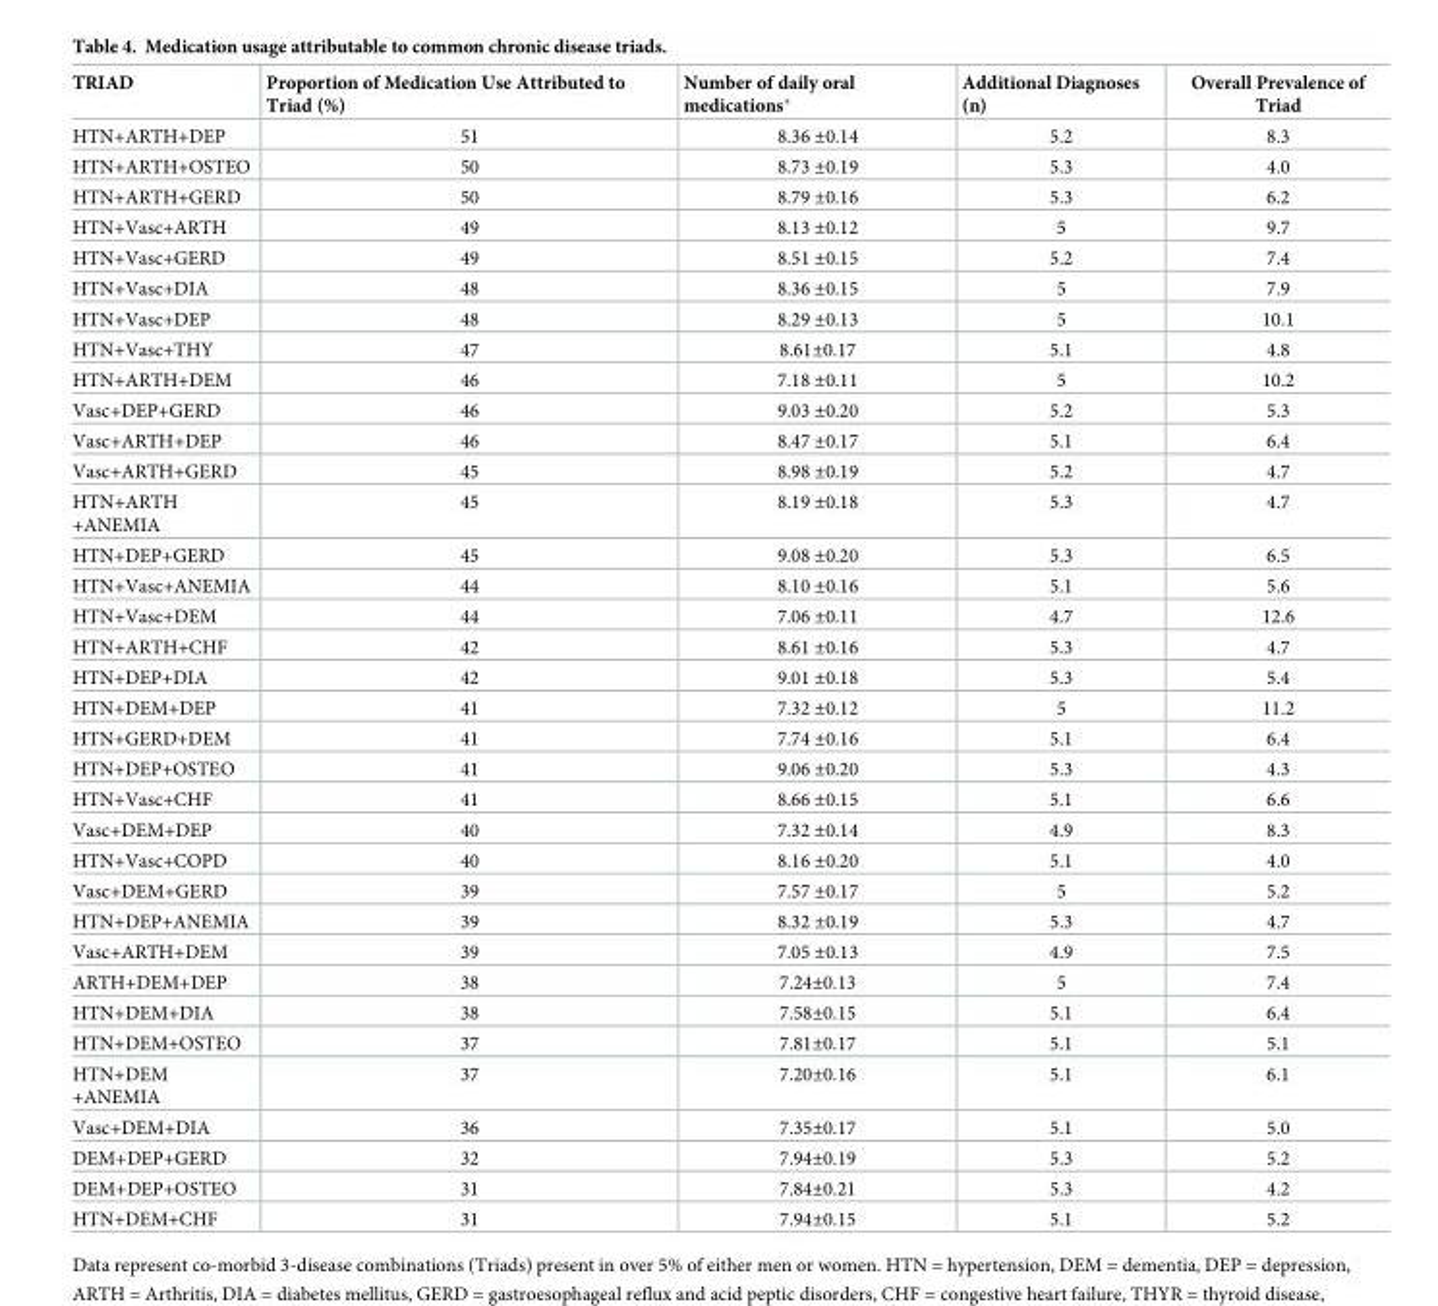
<table><thead><tr><td>TRIAD</td><td>Proportion of Medication Use Attributed to Triad (%)</td><td>Number of daily oral medications*</td><td>Additional Diagnoses (n)</td><td>Overall Prevalence of Triad</td></tr></thead><tbody><tr><td>HTN+ARTH+DEP</td><td>51</td><td>8.36 ±0.14</td><td>5.2</td><td>8.3</td></tr><tr><td>HTN+ARTH+OSTEO</td><td>50</td><td>8.73 ±0.19</td><td>5.3</td><td>4.0</td></tr><tr><td>HTN+ARTH+GERD</td><td>50</td><td>8.79 ±0.16</td><td>5.3</td><td>6.2</td></tr><tr><td>HTN+Vasc+ARTH</td><td>49</td><td>8.13 ±0.12</td><td>5</td><td>9.7</td></tr><tr><td>HTN+Vasc+GERD</td><td>49</td><td>8.51 ±0.15</td><td>5.2</td><td>7.4</td></tr><tr><td>HTN+Vasc+DIA</td><td>48</td><td>8.36 ±0.15</td><td>5</td><td>7.9</td></tr><tr><td>HTN+Vasc+DEP</td><td>48</td><td>8.29 ±0.13</td><td>5</td><td>10.1</td></tr><tr><td>HTN+Vasc+THY</td><td>47</td><td>8.61±0.17</td><td>5.1</td><td>4.8</td></tr><tr><td>HTN+ARTH+DEM</td><td>46</td><td>7.18 ±0.11</td><td>5</td><td>10.2</td></tr><tr><td>Vasc+DEP+GERD</td><td>46</td><td>9.03 ±0.20</td><td>5.2</td><td>5.3</td></tr><tr><td>Vasc+ARTH+DEP</td><td>46</td><td>8.47 ±0.17</td><td>5.1</td><td>6.4</td></tr><tr><td>Vasc+ARTH+GERD</td><td>45</td><td>8.98 ±0.19</td><td>5.2</td><td>4.7</td></tr><tr><td>HTN+ARTH +ANEMIA</td><td>45</td><td>8.19 ±0.18</td><td>5.3</td><td>4.7</td></tr><tr><td>HTN+DEP+GERD</td><td>45</td><td>9.08 ±0.20</td><td>5.3</td><td>6.5</td></tr><tr><td>HTN+Vasc+ANEMIA</td><td>44</td><td>8.10 ±0.16</td><td>5.1</td><td>5.6</td></tr><tr><td>HTN+Vasc+DEM</td><td>44</td><td>7.06 ±0.11</td><td>4.7</td><td>12.6</td></tr><tr><td>HTN+ARTH+CHF</td><td>42</td><td>8.61 ±0.16</td><td>5.3</td><td>4.7</td></tr><tr><td>HTN+DEP+DIA</td><td>42</td><td>9.01 ±0.18</td><td>5.3</td><td>5.4</td></tr><tr><td>HTN+DEM+DEP</td><td>41</td><td>7.32 ±0.12</td><td>5</td><td>11.2</td></tr><tr><td>HTN+GERD+DEM</td><td>41</td><td>7.74 ±0.16</td><td>5.1</td><td>6.4</td></tr><tr><td>HTN+DEP+OSTEO</td><td>41</td><td>9.06 ±0.20</td><td>5.3</td><td>4.3</td></tr><tr><td>HTN+Vasc+CHF</td><td>41</td><td>8.66 ±0.15</td><td>5.1</td><td>6.6</td></tr><tr><td>Vasc+DEM+DEP</td><td>40</td><td>7.32 ±0.14</td><td>4.9</td><td>8.3</td></tr><tr><td>HTN+Vasc+COPD</td><td>40</td><td>8.16 ±0.20</td><td>5.1</td><td>4.0</td></tr><tr><td>Vasc+DEM+GERD</td><td>39</td><td>7.57 ±0.17</td><td>5</td><td>5.2</td></tr><tr><td>HTN+DEP+ANEMIA</td><td>39</td><td>8.32 ±0.19</td><td>5.3</td><td>4.7</td></tr><tr><td>Vasc+ARTH+DEM</td><td>39</td><td>7.05 ±0.13</td><td>4.9</td><td>7.5</td></tr><tr><td>ARTH+DEM+DEP</td><td>38</td><td>7.24±0.13</td><td>5</td><td>7.4</td></tr><tr><td>HTN+DEM+DIA</td><td>38</td><td>7.58±0.15</td><td>5.1</td><td>6.4</td></tr><tr><td>HTN+DEM+OSTEO</td><td>37</td><td>7.81±0.17</td><td>5.1</td><td>5.1</td></tr><tr><td>HTN+DEM +ANEMIA</td><td>37</td><td>7.20±0.16</td><td>5.1</td><td>6.1</td></tr><tr><td>Vasc+DEM+DIA</td><td>36</td><td>7.35±0.17</td><td>5.1</td><td>5.0</td></tr><tr><td>DEM+DEP+GERD</td><td>32</td><td>7.94±0.19</td><td>5.3</td><td>5.2</td></tr><tr><td>DEM+DEP+OSTEO</td><td>31</td><td>7.84±0.21</td><td>5.3</td><td>4.2</td></tr><tr><td>HTN+DEM+CHF</td><td>31</td><td>7.94±0.15</td><td>5.1</td><td>5.2</td></tr></tbody></table>